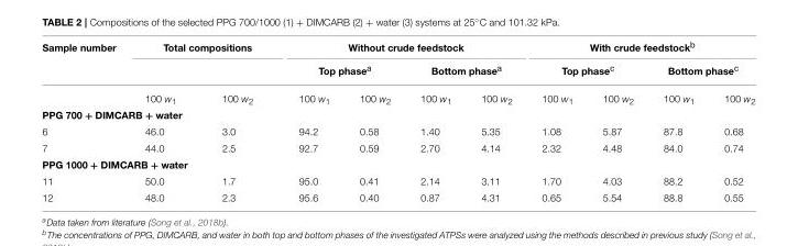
<table><thead><tr><td rowspan="3">Sample number</td><td colspan="2">Total compositions</td><td colspan="4">Without crude feedstock</td><td colspan="4">With crude feedstock<sup>b</sup></td></tr><tr><td rowspan="2">100 w<sub>1</sub></td><td rowspan="2">100 w<sub>2</sub></td><td colspan="2">Top phase<sup>a</sup></td><td colspan="2">Bottom phase<sup>a</sup></td><td colspan="2">Top phase<sup>c</sup></td><td colspan="2">Bottom phase<sup>c</sup></td></tr><tr><td>100 w<sub>1</sub></td><td>100 w<sub>2</sub></td><td>100 w<sub>1</sub></td><td>100 w<sub>2</sub></td><td>100 w<sub>1</sub></td><td>100 w<sub>2</sub></td><td>100 w<sub>1</sub></td><td>100 w<sub>2</sub></td></tr></thead><tbody><tr><td colspan="11">PPG 700 + DIMCARB + water</td></tr><tr><td>6</td><td>46.0</td><td>3.0</td><td>94.2</td><td>0.58</td><td>1.40</td><td>5.35</td><td>1.08</td><td>5.87</td><td>87.8</td><td>0.68</td></tr><tr><td>7</td><td>44.0</td><td>2.5</td><td>92.7</td><td>0.59</td><td>2.70</td><td>4.14</td><td>2.32</td><td>4.48</td><td>84.0</td><td>0.74</td></tr><tr><td colspan="11">PPG 1000 + DIMCARB + water</td></tr><tr><td>11</td><td>50.0</td><td>1.7</td><td>95.0</td><td>0.41</td><td>2.14</td><td>3.11</td><td>1.70</td><td>4.03</td><td>88.2</td><td>0.52</td></tr><tr><td>12</td><td>48.0</td><td>2.3</td><td>95.6</td><td>0.40</td><td>0.87</td><td>4.31</td><td>0.65</td><td>5.54</td><td>88.8</td><td>0.55</td></tr></tbody></table>